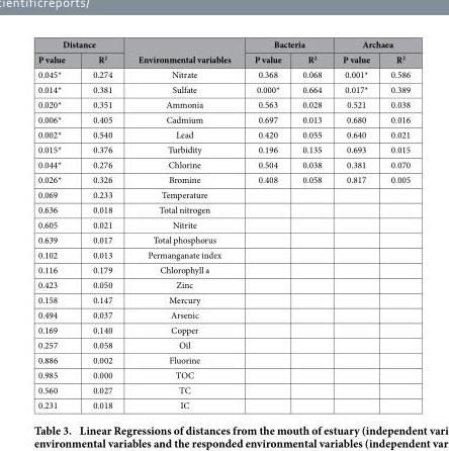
<table><thead><tr><td colspan="2">Distance</td><td rowspan="2">Environmental variables</td><td colspan="2">Bacteria</td><td colspan="2">Archaea</td></tr><tr><td>P value</td><td>R<sup>2</sup></td><td>P value</td><td>R<sup>2</sup></td><td>P value</td><td>R<sup>2</sup></td></tr></thead><tbody><tr><td>0.045*</td><td>0.274</td><td>Nitrate</td><td>0.368</td><td>0.068</td><td>0.001*</td><td>0.586</td></tr><tr><td>0.014*</td><td>0.381</td><td>Sulfate</td><td>0.000*</td><td>0.664</td><td>0.017*</td><td>0.389</td></tr><tr><td>0.020*</td><td>0.351</td><td>Ammonia</td><td>0.563</td><td>0.028</td><td>0.521</td><td>0.038</td></tr><tr><td>0.006*</td><td>0.405</td><td>Cadmium</td><td>0.697</td><td>0.013</td><td>0.680</td><td>0.016</td></tr><tr><td>0.002*</td><td>0.540</td><td>Lead</td><td>0.420</td><td>0.055</td><td>0.640</td><td>0.021</td></tr><tr><td>0.015*</td><td>0.376</td><td>Turbidity</td><td>0.196</td><td>0.135</td><td>0.693</td><td>0.015</td></tr><tr><td>0.044*</td><td>0.276</td><td>Chlorine</td><td>0.504</td><td>0.038</td><td>0.381</td><td>0.070</td></tr><tr><td>0.026*</td><td>0.326</td><td>Bromine</td><td>0.408</td><td>0.058</td><td>0.817</td><td>0.005</td></tr><tr><td>0.069</td><td>0.233</td><td>Temperature</td><td></td><td></td><td></td><td></td></tr><tr><td>0.636</td><td>0.018</td><td>Total nitrogen</td><td></td><td></td><td></td><td></td></tr><tr><td>0.605</td><td>0.021</td><td>Nitrite</td><td></td><td></td><td></td><td></td></tr><tr><td>0.639</td><td>0.017</td><td>Total phosphorus</td><td></td><td></td><td></td><td></td></tr><tr><td>0.102</td><td>0.013</td><td>Permanganate index</td><td></td><td></td><td></td><td></td></tr><tr><td>0.116</td><td>0.179</td><td>Chlorophyll a</td><td></td><td></td><td></td><td></td></tr><tr><td>0.423</td><td>0.050</td><td>Zinc</td><td></td><td></td><td></td><td></td></tr><tr><td>0.158</td><td>0.147</td><td>Mercury</td><td></td><td></td><td></td><td></td></tr><tr><td>0.494</td><td>0.037</td><td>Arsenic</td><td></td><td></td><td></td><td></td></tr><tr><td>0.169</td><td>0.140</td><td>Copper</td><td></td><td></td><td></td><td></td></tr><tr><td>0.257</td><td>0.058</td><td>Oil</td><td></td><td></td><td></td><td></td></tr><tr><td>0.886</td><td>0.002</td><td>Fluorine</td><td></td><td></td><td></td><td></td></tr><tr><td>0.985</td><td>0.000</td><td>TOC</td><td></td><td></td><td></td><td></td></tr><tr><td>0.560</td><td>0.027</td><td>TC</td><td></td><td></td><td></td><td></td></tr><tr><td>0.231</td><td>0.018</td><td>IC</td><td></td><td></td><td></td><td></td></tr></tbody></table>